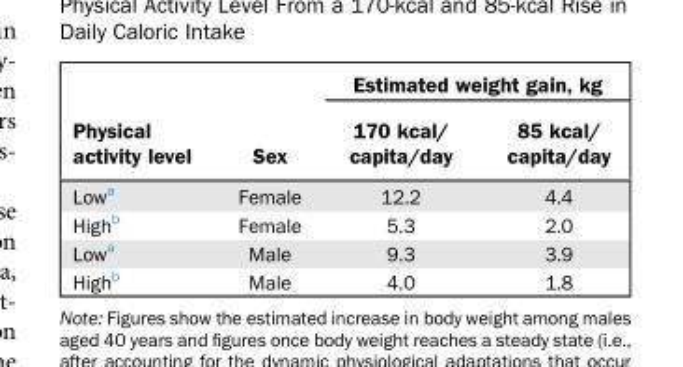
<table><thead><tr><td rowspan="2">Physical activity level</td><td rowspan="2">Sex</td><td colspan="2">Estimated weight gain, kg</td></tr><tr><td>170 kcal/ capita/day</td><td>85 kcal/ capita/day</td></tr></thead><tbody><tr><td>Low<sup>a</sup></td><td>Female</td><td>12.2</td><td>4.4</td></tr><tr><td>High<sup>b</sup></td><td>Female</td><td>5.3</td><td>2.0</td></tr><tr><td>Low<sup>a</sup></td><td>Male</td><td>9.3</td><td>3.9</td></tr><tr><td>High<sup>b</sup></td><td>Male</td><td>4.0</td><td>1.8</td></tr></tbody></table>